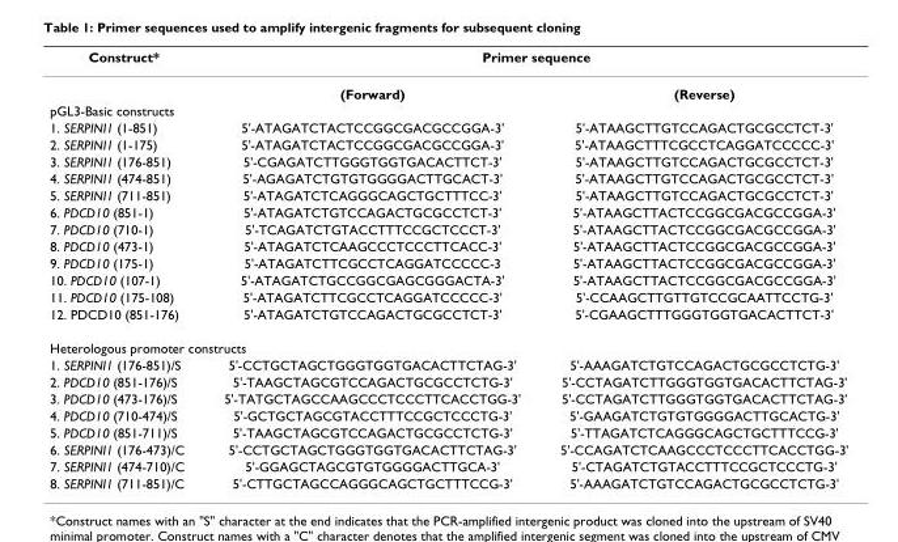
<table><thead><tr><td rowspan="2">Construct*</td><td colspan="2">Primer sequence</td></tr><tr><td>(Forward)</td><td>(Reverse)</td></tr></thead><tbody><tr><td colspan="3">pGL3-Basic constructs</td></tr><tr><td>1. SERPINI1 (1-851)</td><td>5&#x27;-ATAGATCTACTCCGGCGACGCCGGA-3&#x27;</td><td>5&#x27;-ATAAGCTTGTCCAGACTGCGCCTCT-3&#x27;</td></tr><tr><td>2. SERPINI1 (1-175)</td><td>5&#x27;-ATAGATCTACTCCGGCGACGCCGGA-3&#x27;</td><td>5&#x27;-ATAAGCTTTCGCCTCAGGATCCCCC-3&#x27;</td></tr><tr><td>3. SERPINI1 (176-851)</td><td>5&#x27;-CGAGATCTTGGGTGGTGACACTTCT-3&#x27;</td><td>5&#x27;-ATAAGCTTGTCCAGACTGCGCCTCT-3&#x27;</td></tr><tr><td>4. SERPINI1 (474-851)</td><td>5&#x27;-AGAGATCTGTGTGGGGACTTGCACT-3&#x27;</td><td>5&#x27;-ATAAGCTTGTCCAGACTGCGCCTCT-3&#x27;</td></tr><tr><td>5. SERPINI1 (711-851)</td><td>5&#x27;-ATAGATCTCAGGGCAGCTGCTTTCC-3&#x27;</td><td>5&#x27;-ATAAGCTTGTCCAGACTGCGCCTCT-3&#x27;</td></tr><tr><td>6. PDCD10 (851-1)</td><td>5&#x27;-ATAGATCTGTCCAGACTGCGCCTCT-3&#x27;</td><td>5&#x27;-ATAAGCTTACTCCGGCGACGCCGGA-3&#x27;</td></tr><tr><td>7. PDCD10 (710-1)</td><td>5&#x27;-TCAGATCTGTACCTTTCCGCTCCCT-3&#x27;</td><td>5&#x27;-ATAAGCTTACTCCGGCGACGCCGGA-3&#x27;</td></tr><tr><td>8. PDCD10 (473-1)</td><td>5&#x27;-ATAGATCTCAAGCCCTCCCTTCACC-3&#x27;</td><td>5&#x27;-ATAAGCTTACTCCGGCGACGCCGGA-3&#x27;</td></tr><tr><td>9. PDCD10 (175-1)</td><td>5&#x27;-ATAGATCTTCGCCTCAGGATCCCCC-3</td><td>5&#x27;-ATAAGCTTACTCCGGCGACGCCGGA-3&#x27;</td></tr><tr><td>10. PDCD10 (107-1)</td><td>5&#x27;-ATAGATCTGCCGGCGAGCGGGACTA-3&#x27;</td><td>5&#x27;-ATAAGCTTACTCCGGCGACGCCGGA-3&#x27;</td></tr><tr><td>11. PDCD10 (175-108)</td><td>5&#x27;-ATAGATCTTCGCCTCAGGATCCCCC-3&#x27;</td><td>5&#x27;-CCAAGCTTGTTGTCCGCAATTCCTG-3&#x27;</td></tr><tr><td>12. PDCD10 (851-176)</td><td>5&#x27;-ATAGATCTGTCCAGACTGCGCCTCT-3&#x27;</td><td>5&#x27;-CGAAGCTTTGGGTGGTGACACTTCT-3&#x27;</td></tr><tr><td colspan="3">Heterologous promoter constructs</td></tr><tr><td>1. SERPINI1 (176-851)/S</td><td>5&#x27;-CCTGCTAGCTGGGTGGTGACACTTCTAG-3&#x27;</td><td>5&#x27;-AAAGATCTGTCCAGACTGCGCCTCTG-3&#x27;</td></tr><tr><td>2. PDCD10 (851-176)/S</td><td>5&#x27;-TAAGCTAGCGTCCAGACTGCGCCTCTG-3&#x27;</td><td>5&#x27;-CCTAGATCTTGGGTGGTGACACTTCTAG-3&#x27;</td></tr><tr><td>3. PDCD10 (473-176)/S</td><td>5&#x27;-TATGCTAGCCAAGCCCTCCCTTCACCTGG-3&#x27;</td><td>5&#x27;-CCTAGATCTTGGGTGGTGACACTTCTAG-3&#x27;</td></tr><tr><td>4. PDCD10 (710-474)/S</td><td>5&#x27;-GCTGCTAGCGTACCTTTCCGCTCCCTG-3&#x27;</td><td>5&#x27;-GAAGATCTGTGTGGGGACTTGCACTG-3&#x27;</td></tr><tr><td>5. PDCD10 (851-711)/S</td><td>5&#x27;-TAAGCTAGCGTCCAGACTGCGCCTCTG-3&#x27;</td><td>5&#x27;-TTAGATCTCAGGGCAGCTGCTTTCCG-3&#x27;</td></tr><tr><td>6. SERPINI1 (176-473)/C</td><td>5&#x27;-CCTGCTAGCTGGGTGGTGACACTTCTAG-3&#x27;</td><td>5&#x27;-CCAGATCTCAAGCCCTCCCTTCACCTGG-3&#x27;</td></tr><tr><td>7. SERPINI1 (474-710)/C</td><td>5&#x27;-GGAGCTAGCGTGTGGGGACTTGCA-3&#x27;</td><td>5&#x27;-CTAGATCTGTACCTTTCCGCTCCCTG-3&#x27;</td></tr><tr><td>8. SERPINI1 (711-851)/C</td><td>5&#x27;-CTTGCTAGCCAGGGCAGCTGCTTTCCG-3&#x27;</td><td>5&#x27;-AAAGATCTGTCCAGACTGCGCCTCTG-3&#x27;</td></tr></tbody></table>